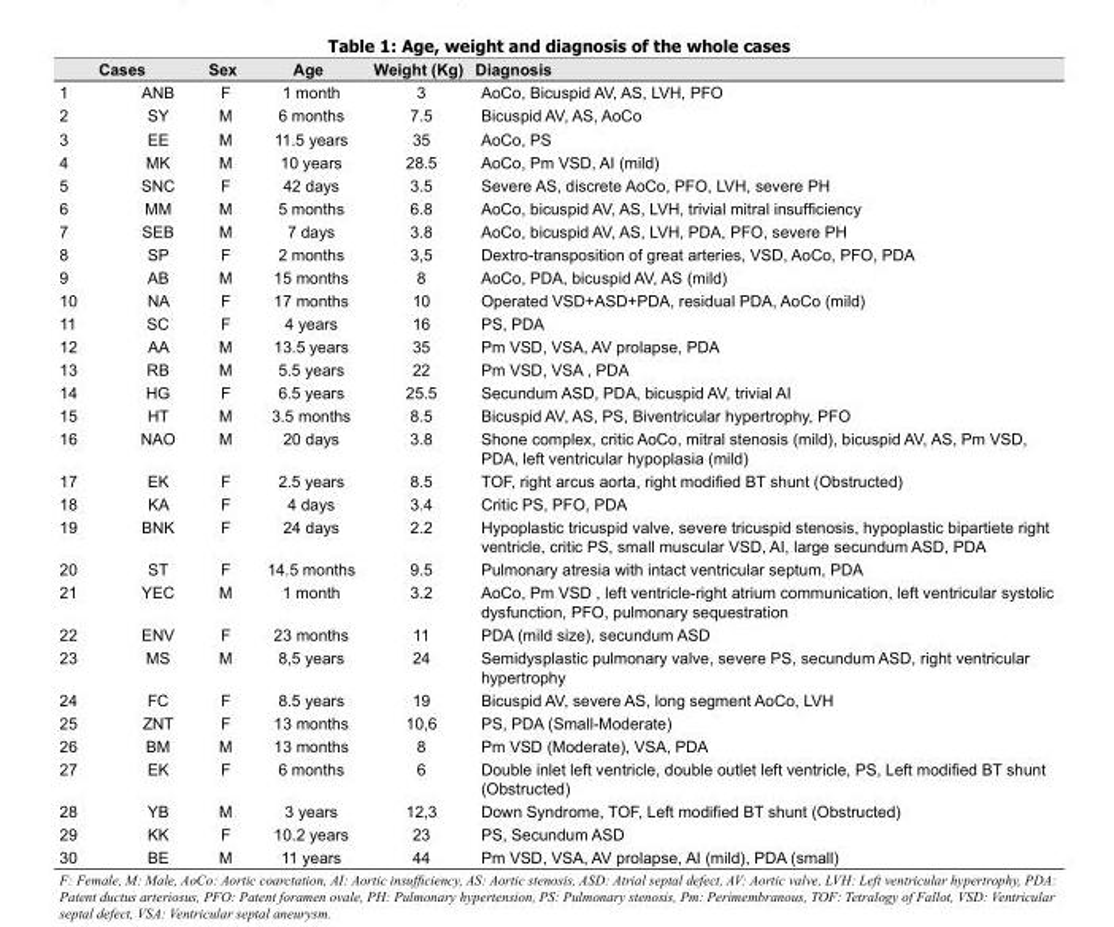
<table><thead><tr><td colspan="2">Cases</td><td rowspan="2">Sex F</td><td rowspan="2">Age 1 month</td><td rowspan="2">Weight (Kg) 3</td><td rowspan="2">Diagnosis AoCo, Bicuspid AV, AS, LVH, PFO</td></tr><tr><td>1</td><td>ANB</td></tr></thead><tbody><tr><td>2</td><td>SY</td><td>M</td><td>6 months</td><td>7.5</td><td>Bicuspid AV, AS, AoCo</td></tr><tr><td>3</td><td>EE</td><td>M</td><td>11.5 years</td><td>35</td><td>AoCo, PS</td></tr><tr><td>4</td><td>MK</td><td>M</td><td>10 years</td><td>28.5</td><td>AoCo, Pm VSD, AI (mild)</td></tr><tr><td>5</td><td>SNC</td><td>F</td><td>42 days</td><td>3.5</td><td>Severe AS, discrete AoCo, PFO, LVH, severe PH</td></tr><tr><td>6</td><td>MM</td><td>M</td><td>5 months</td><td>6.8</td><td>AoCo, bicuspid AV, AS, LVH, trivial mitral insuffi ciency</td></tr><tr><td>7</td><td>SEB</td><td>M</td><td>7 days</td><td>3.8</td><td>AoCo, bicuspid AV, AS, LVH, PDA, PFO, severe PH</td></tr><tr><td>8</td><td>SP</td><td>F</td><td>2 months</td><td>3,5</td><td>Dextro-transposition of great arteries, VSD, AoCo, PFO, PDA</td></tr><tr><td>9</td><td>AB</td><td>M</td><td>15 months</td><td>8</td><td>AoCo, PDA, bicuspid AV, AS (mild)</td></tr><tr><td>10</td><td>NA</td><td>F</td><td>17 months</td><td>10</td><td>Operated VSD+ASD+PDA, residual PDA, AoCo (mild)</td></tr><tr><td>11</td><td>SC</td><td>F</td><td>4 years</td><td>16</td><td>PS, PDA</td></tr><tr><td>12</td><td>AA</td><td>M</td><td>13.5 years</td><td>35</td><td>Pm VSD, VSA, AV prolapse, PDA</td></tr><tr><td>13</td><td>RB</td><td>M</td><td>5.5 years</td><td>22</td><td>Pm VSD, VSA , PDA</td></tr><tr><td>14</td><td>HG</td><td>F</td><td>6.5 years</td><td>25.5</td><td>Secundum ASD, PDA, bicuspid AV, trivial AI</td></tr><tr><td>15</td><td>HT</td><td>M</td><td>3.5 months</td><td>8.5</td><td>Bicuspid AV, AS, PS, Biventricular hypertrophy, PFO</td></tr><tr><td>16</td><td>NAO</td><td>M</td><td>20 days</td><td>3.8</td><td>Shone complex, critic AoCo, mitral stenosis (mild), bicuspid AV, AS, Pm VSD, PDA, left ventricular hypoplasia (mild)</td></tr><tr><td>17</td><td>EK</td><td>F</td><td>2.5 years</td><td>8.5</td><td>TOF, right arcus aorta, right modifi ed BT shunt (Obstructed)</td></tr><tr><td>18</td><td>KA</td><td>F</td><td>4 days</td><td>3.4</td><td>Critic PS, PFO, PDA</td></tr><tr><td>19</td><td>BNK</td><td>F</td><td>24 days</td><td>2.2</td><td>Hypoplastic tricuspid valve, severe tricuspid stenosis, hypoplastic bipartiete right ventricle, critic PS, small muscular VSD, AI, large secundum ASD, PDA</td></tr><tr><td>20</td><td>ST</td><td>F</td><td>14.5 months</td><td>9.5</td><td>Pulmonary atresia with intact ventricular septum, PDA</td></tr><tr><td>21</td><td>YEC</td><td>M</td><td>1 month</td><td>3.2</td><td>AoCo, Pm VSD , left ventricle-right atrium communication, left ventricular systolic dysfunction, PFO, pulmonary sequestration</td></tr><tr><td>22</td><td>ENV</td><td>F</td><td>23 months</td><td>11</td><td>PDA (mild size), secundum ASD</td></tr><tr><td>23</td><td>MS</td><td>M</td><td>8,5 years</td><td>24</td><td>Semidysplastic pulmonary valve, severe PS, secundum ASD, right ventricular hypertrophy</td></tr><tr><td>24</td><td>FC</td><td>F</td><td>8.5 years</td><td>19</td><td>Bicuspid AV, severe AS, long segment AoCo, LVH</td></tr><tr><td>25</td><td>ZNT</td><td>F</td><td>13 months</td><td>10,6</td><td>PS, PDA (Small-Moderate)</td></tr><tr><td>26</td><td>BM</td><td>M</td><td>13 months</td><td>8</td><td>Pm VSD (Moderate), VSA, PDA</td></tr><tr><td>27</td><td>EK</td><td>F</td><td>6 months</td><td>6</td><td>Double inlet left ventricle, double outlet left ventricle, PS, Left modifi ed BT shunt (Obstructed)</td></tr><tr><td>28</td><td>YB</td><td>M</td><td>3 years</td><td>12,3</td><td>Down Syndrome, TOF, Left modifi ed BT shunt (Obstructed)</td></tr><tr><td>29</td><td>KK</td><td>F</td><td>10.2 years</td><td>23</td><td>PS, Secundum ASD</td></tr><tr><td>30</td><td>BE</td><td>M</td><td>11 years</td><td>44</td><td>Pm VSD, VSA, AV prolapse, AI (mild), PDA (small)</td></tr></tbody></table>